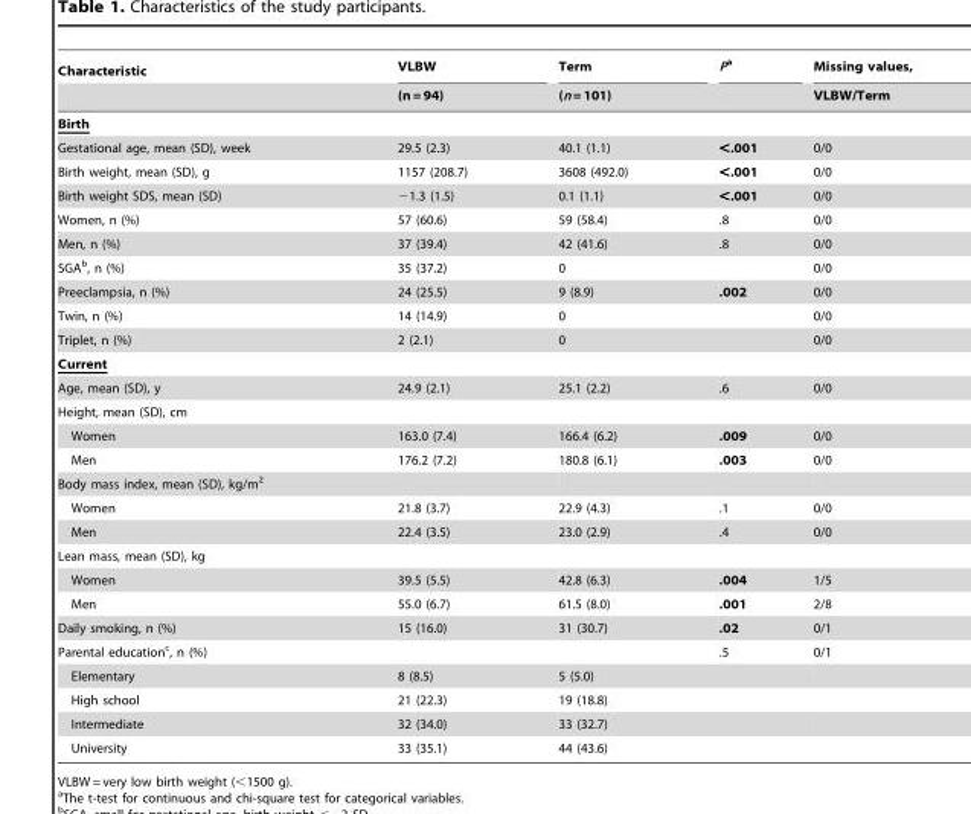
<table><thead><tr><td rowspan="2">Characteristic</td><td rowspan="2">VLBW (n = 94)</td><td rowspan="2">Term (n = 101)</td><td rowspan="2">Pa</td><td rowspan="2">Missing values, VLBW/Term</td></tr><tr></tr></thead><tbody><tr><td colspan="5">Birth</td></tr><tr><td>Gestational age, mean (SD), week</td><td>29.5 (2.3)</td><td>40.1 (1.1)</td><td>&lt;.001</td><td>0/0</td></tr><tr><td>Birth weight, mean (SD), g</td><td>1157 (208.7)</td><td>3608 (492.0)</td><td>&lt;.001</td><td>0/0</td></tr><tr><td>Birth weight SDS, mean (SD)</td><td>−1.3 (1.5)</td><td>0.1 (1.1)</td><td>&lt;.001</td><td>0/0</td></tr><tr><td>Women, n (%)</td><td>57 (60.6)</td><td>59 (58.4)</td><td>.8</td><td>0/0</td></tr><tr><td>Men, n (%)</td><td>37 (39.4)</td><td>42 (41.6)</td><td>.8</td><td>0/0</td></tr><tr><td>SGA<sup>b</sup>, n (%)</td><td>35 (37.2)</td><td>0</td><td></td><td>0/0</td></tr><tr><td>Preeclampsia, n (%)</td><td>24 (25.5)</td><td>9 (8.9)</td><td>.002</td><td>0/0</td></tr><tr><td>Twin, n (%)</td><td>14 (14.9)</td><td>0</td><td></td><td>0/0</td></tr><tr><td>Triplet, n (%)</td><td>2 (2.1)</td><td>0</td><td></td><td>0/0</td></tr><tr><td colspan="5">Current</td></tr><tr><td>Age, mean (SD), y</td><td>24.9 (2.1)</td><td>25.1 (2.2)</td><td>.6</td><td>0/0</td></tr><tr><td colspan="5">Height, mean (SD), cm</td></tr><tr><td>Women</td><td>163.0 (7.4)</td><td>166.4 (6.2)</td><td>.009</td><td>0/0</td></tr><tr><td>Men</td><td>176.2 (7.2)</td><td>180.8 (6.1)</td><td>.003</td><td>0/0</td></tr><tr><td colspan="5">Body mass index, mean (SD), kg/m<sup>2</sup></td></tr><tr><td>Women</td><td>21.8 (3.7)</td><td>22.9 (4.3)</td><td>.1</td><td>0/0</td></tr><tr><td>Men</td><td>22.4 (3.5)</td><td>23.0 (2.9)</td><td>.4</td><td>0/0</td></tr><tr><td colspan="5">Lean mass, mean (SD), kg</td></tr><tr><td>Women</td><td>39.5 (5.5)</td><td>42.8 (6.3)</td><td>.004</td><td>1/5</td></tr><tr><td>Men</td><td>55.0 (6.7)</td><td>61.5 (8.0)</td><td>.001</td><td>2/8</td></tr><tr><td>Daily smoking, n (%)</td><td>15 (16.0)</td><td>31 (30.7)</td><td>.02</td><td>0/1</td></tr><tr><td>Parental education<sup>c</sup>, n (%)</td><td></td><td></td><td>.5</td><td>0/1</td></tr><tr><td>Elementary</td><td>8 (8.5)</td><td>5 (5.0)</td><td></td><td></td></tr><tr><td>High school</td><td>21 (22.3)</td><td>19 (18.8)</td><td></td><td></td></tr><tr><td>Intermediate</td><td>32 (34.0)</td><td>33 (32.7)</td><td></td><td></td></tr><tr><td>University</td><td>33 (35.1)</td><td>44 (43.6)</td><td></td><td></td></tr></tbody></table>